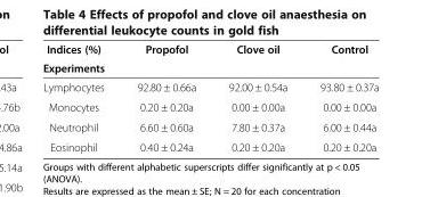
<table><thead><tr><td rowspan="2">Indices (%) Experiments</td><td rowspan="2">Propofol</td><td rowspan="2">Clove oil</td><td rowspan="2">Control</td></tr><tr></tr></thead><tbody><tr><td>Lymphocytes</td><td>92.80 ± 0.66a</td><td>92.00 ± 0.54a</td><td>93.80 ± 0.37a</td></tr><tr><td>Monocytes</td><td>0.20 ± 0.20a</td><td>0.00 ± 0.00a</td><td>0.00 ± 0.00a</td></tr><tr><td>Neutrophil</td><td>6.60 ± 0.60a</td><td>7.80 ± 0.37a</td><td>6.00 ± 0.44a</td></tr><tr><td>Eosinophil</td><td>0.40 ± 0.24a</td><td>0.20 ± 0.20a</td><td>0.20 ± 0.20a</td></tr></tbody></table>